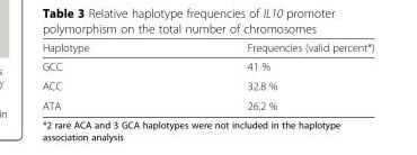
<table><thead><tr><td>Haplotype</td><td>Frequencies (valid percent*)</td></tr></thead><tbody><tr><td>GCC</td><td>41 %</td></tr><tr><td>ACC</td><td>32.8 %</td></tr><tr><td>ATA</td><td>26.2 %</td></tr></tbody></table>